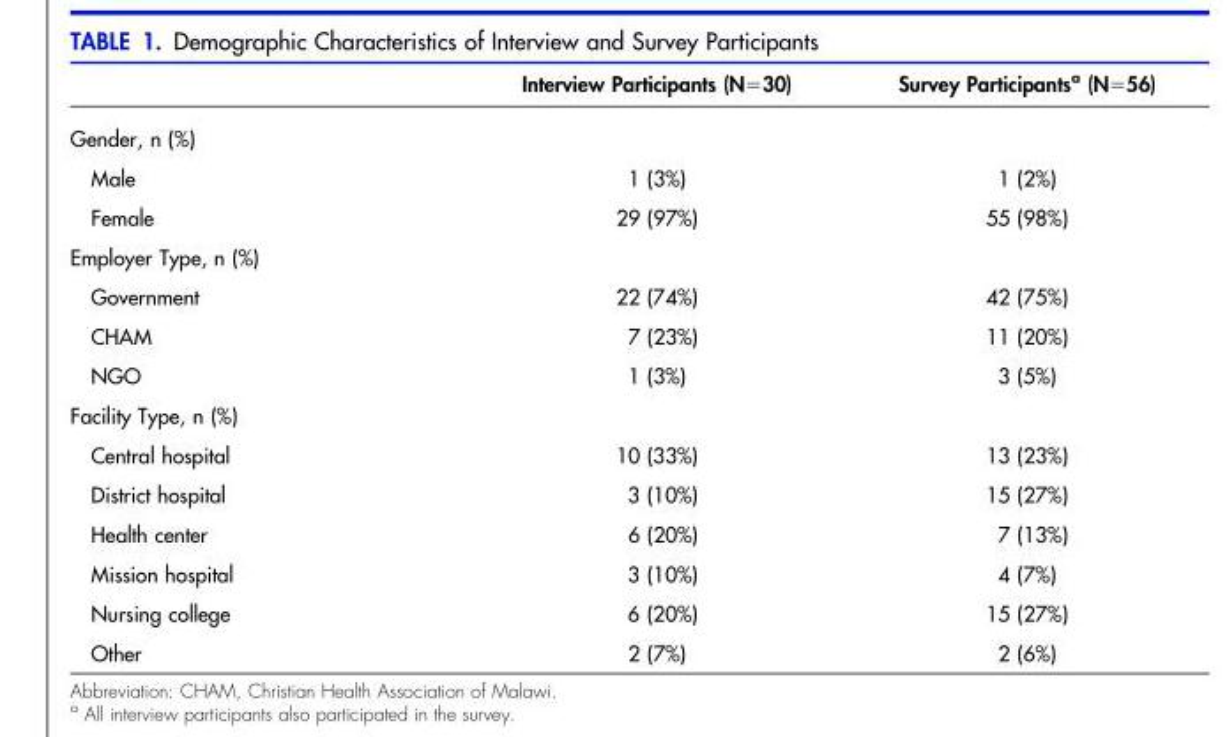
<table><thead><tr><td></td><td>Interview Participants (N=30)</td><td>Survey Participants<sup>a</sup> (N=56)</td></tr></thead><tbody><tr><td colspan="3">Gender, n (%)</td></tr><tr><td>Male</td><td>1 (3%)</td><td>1 (2%)</td></tr><tr><td>Female</td><td>29 (97%)</td><td>55 (98%)</td></tr><tr><td colspan="3">Employer Type, n (%)</td></tr><tr><td>Government</td><td>22 (74%)</td><td>42 (75%)</td></tr><tr><td>CHAM</td><td>7 (23%)</td><td>11 (20%)</td></tr><tr><td>NGO</td><td>1 (3%)</td><td>3 (5%)</td></tr><tr><td colspan="3">Facility Type, n (%)</td></tr><tr><td>Central hospital</td><td>10 (33%)</td><td>13 (23%)</td></tr><tr><td>District hospital</td><td>3 (10%)</td><td>15 (27%)</td></tr><tr><td>Health center</td><td>6 (20%)</td><td>7 (13%)</td></tr><tr><td>Mission hospital</td><td>3 (10%)</td><td>4 (7%)</td></tr><tr><td>Nursing college</td><td>6 (20%)</td><td>15 (27%)</td></tr><tr><td>Other</td><td>2 (7%)</td><td>2 (6%)</td></tr></tbody></table>